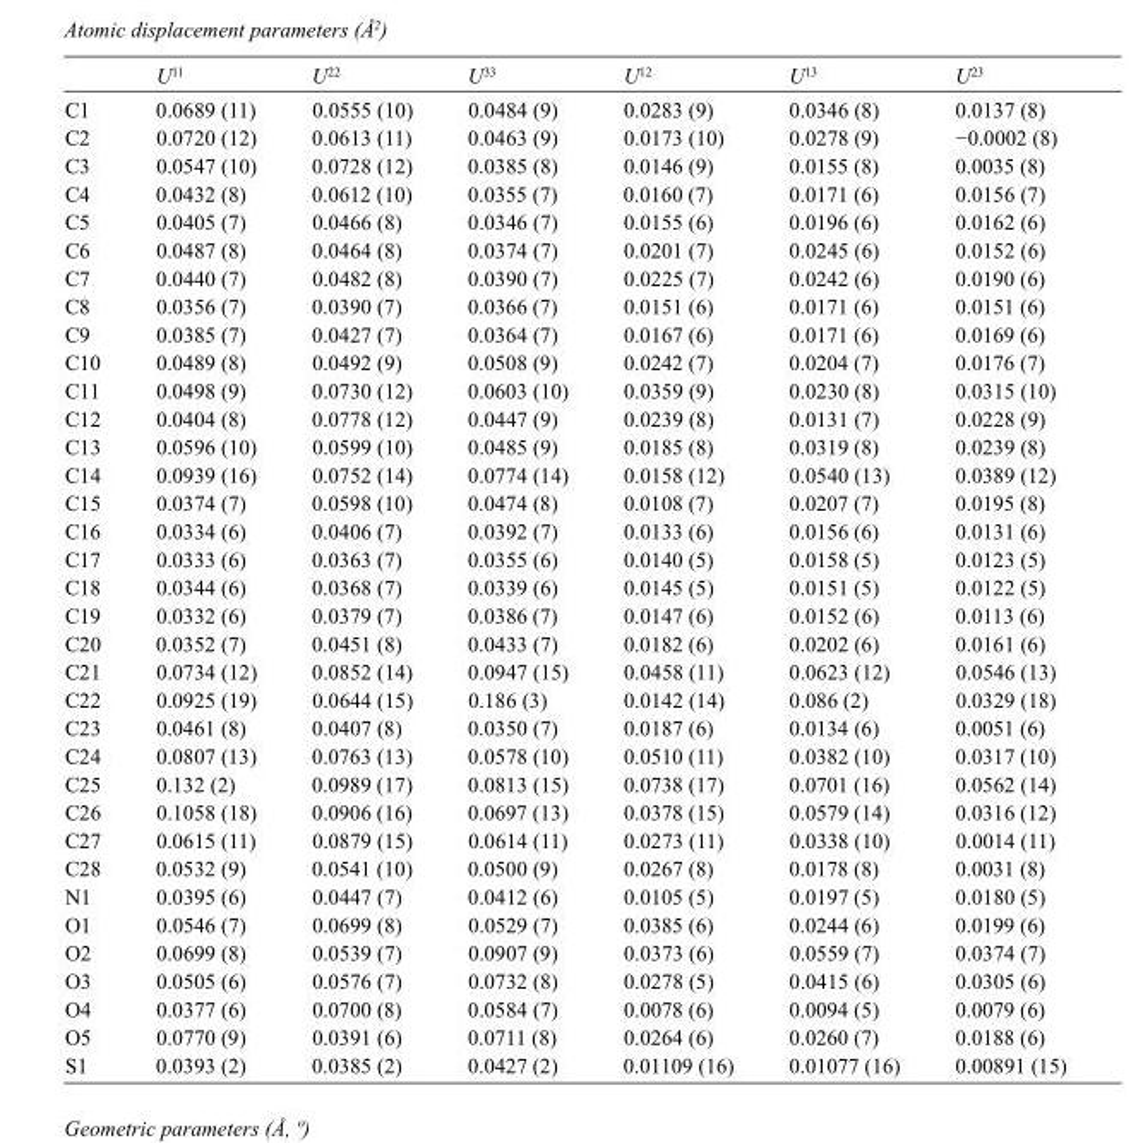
<table><thead><tr><td></td><td>U<sup>11</sup></td><td>U<sup>22</sup></td><td>U<sup>33</sup></td><td>U<sup>12</sup></td><td>U<sup>13</sup></td><td>U<sup>23</sup></td></tr></thead><tbody><tr><td>C1</td><td>0.0689 (11)</td><td>0.0555 (10)</td><td>0.0484 (9)</td><td>0.0283 (9)</td><td>0.0346 (8)</td><td>0.0137 (8)</td></tr><tr><td>C2</td><td>0.0720 (12)</td><td>0.0613 (11)</td><td>0.0463 (9)</td><td>0.0173 (10)</td><td>0.0278 (9)</td><td>−0.0002 (8)</td></tr><tr><td>C3</td><td>0.0547 (10)</td><td>0.0728 (12)</td><td>0.0385 (8)</td><td>0.0146 (9)</td><td>0.0155 (8)</td><td>0.0035 (8)</td></tr><tr><td>C4</td><td>0.0432 (8)</td><td>0.0612 (10)</td><td>0.0355 (7)</td><td>0.0160 (7)</td><td>0.0171 (6)</td><td>0.0156 (7)</td></tr><tr><td>C5</td><td>0.0405 (7)</td><td>0.0466 (8)</td><td>0.0346 (7)</td><td>0.0155 (6)</td><td>0.0196 (6)</td><td>0.0162 (6)</td></tr><tr><td>C6</td><td>0.0487 (8)</td><td>0.0464 (8)</td><td>0.0374 (7)</td><td>0.0201 (7)</td><td>0.0245 (6)</td><td>0.0152 (6)</td></tr><tr><td>C7</td><td>0.0440 (7)</td><td>0.0482 (8)</td><td>0.0390 (7)</td><td>0.0225 (7)</td><td>0.0242 (6)</td><td>0.0190 (6)</td></tr><tr><td>C8</td><td>0.0356 (7)</td><td>0.0390 (7)</td><td>0.0366 (7)</td><td>0.0151 (6)</td><td>0.0171 (6)</td><td>0.0151 (6)</td></tr><tr><td>C9</td><td>0.0385 (7)</td><td>0.0427 (7)</td><td>0.0364 (7)</td><td>0.0167 (6)</td><td>0.0171 (6)</td><td>0.0169 (6)</td></tr><tr><td>C10</td><td>0.0489 (8)</td><td>0.0492 (9)</td><td>0.0508 (9)</td><td>0.0242 (7)</td><td>0.0204 (7)</td><td>0.0176 (7)</td></tr><tr><td>C11</td><td>0.0498 (9)</td><td>0.0730 (12)</td><td>0.0603 (10)</td><td>0.0359 (9)</td><td>0.0230 (8)</td><td>0.0315 (10)</td></tr><tr><td>C12</td><td>0.0404 (8)</td><td>0.0778 (12)</td><td>0.0447 (9)</td><td>0.0239 (8)</td><td>0.0131 (7)</td><td>0.0228 (9)</td></tr><tr><td>C13</td><td>0.0596 (10)</td><td>0.0599 (10)</td><td>0.0485 (9)</td><td>0.0185 (8)</td><td>0.0319 (8)</td><td>0.0239 (8)</td></tr><tr><td>C14</td><td>0.0939 (16)</td><td>0.0752 (14)</td><td>0.0774 (14)</td><td>0.0158 (12)</td><td>0.0540 (13)</td><td>0.0389 (12)</td></tr><tr><td>C15</td><td>0.0374 (7)</td><td>0.0598 (10)</td><td>0.0474 (8)</td><td>0.0108 (7)</td><td>0.0207 (7)</td><td>0.0195 (8)</td></tr><tr><td>C16</td><td>0.0334 (6)</td><td>0.0406 (7)</td><td>0.0392 (7)</td><td>0.0133 (6)</td><td>0.0156 (6)</td><td>0.0131 (6)</td></tr><tr><td>C17</td><td>0.0333 (6)</td><td>0.0363 (7)</td><td>0.0355 (6)</td><td>0.0140 (5)</td><td>0.0158 (5)</td><td>0.0123 (5)</td></tr><tr><td>C18</td><td>0.0344 (6)</td><td>0.0368 (7)</td><td>0.0339 (6)</td><td>0.0145 (5)</td><td>0.0151 (5)</td><td>0.0122 (5)</td></tr><tr><td>C19</td><td>0.0332 (6)</td><td>0.0379 (7)</td><td>0.0386 (7)</td><td>0.0147 (6)</td><td>0.0152 (6)</td><td>0.0113 (6)</td></tr><tr><td>C20</td><td>0.0352 (7)</td><td>0.0451 (8)</td><td>0.0433 (7)</td><td>0.0182 (6)</td><td>0.0202 (6)</td><td>0.0161 (6)</td></tr><tr><td>C21</td><td>0.0734 (12)</td><td>0.0852 (14)</td><td>0.0947 (15)</td><td>0.0458 (11)</td><td>0.0623 (12)</td><td>0.0546 (13)</td></tr><tr><td>C22</td><td>0.0925 (19)</td><td>0.0644 (15)</td><td>0.186 (3)</td><td>0.0142 (14)</td><td>0.086 (2)</td><td>0.0329 (18)</td></tr><tr><td>C23</td><td>0.0461 (8)</td><td>0.0407 (8)</td><td>0.0350 (7)</td><td>0.0187 (6)</td><td>0.0134 (6)</td><td>0.0051 (6)</td></tr><tr><td>C24</td><td>0.0807 (13)</td><td>0.0763 (13)</td><td>0.0578 (10)</td><td>0.0510 (11)</td><td>0.0382 (10)</td><td>0.0317 (10)</td></tr><tr><td>C25</td><td>0.132 (2)</td><td>0.0989 (17)</td><td>0.0813 (15)</td><td>0.0738 (17)</td><td>0.0701 (16)</td><td>0.0562 (14)</td></tr><tr><td>C26</td><td>0.1058 (18)</td><td>0.0906 (16)</td><td>0.0697 (13)</td><td>0.0378 (15)</td><td>0.0579 (14)</td><td>0.0316 (12)</td></tr><tr><td>C27</td><td>0.0615 (11)</td><td>0.0879 (15)</td><td>0.0614 (11)</td><td>0.0273 (11)</td><td>0.0338 (10)</td><td>0.0014 (11)</td></tr><tr><td>C28</td><td>0.0532 (9)</td><td>0.0541 (10)</td><td>0.0500 (9)</td><td>0.0267 (8)</td><td>0.0178 (8)</td><td>0.0031 (8)</td></tr><tr><td>N1</td><td>0.0395 (6)</td><td>0.0447 (7)</td><td>0.0412 (6)</td><td>0.0105 (5)</td><td>0.0197 (5)</td><td>0.0180 (5)</td></tr><tr><td>O1</td><td>0.0546 (7)</td><td>0.0699 (8)</td><td>0.0529 (7)</td><td>0.0385 (6)</td><td>0.0244 (6)</td><td>0.0199 (6)</td></tr><tr><td>O2</td><td>0.0699 (8)</td><td>0.0539 (7)</td><td>0.0907 (9)</td><td>0.0373 (6)</td><td>0.0559 (7)</td><td>0.0374 (7)</td></tr><tr><td>O3</td><td>0.0505 (6)</td><td>0.0576 (7)</td><td>0.0732 (8)</td><td>0.0278 (5)</td><td>0.0415 (6)</td><td>0.0305 (6)</td></tr><tr><td>O4</td><td>0.0377 (6)</td><td>0.0700 (8)</td><td>0.0584 (7)</td><td>0.0078 (6)</td><td>0.0094 (5)</td><td>0.0079 (6)</td></tr><tr><td>O5</td><td>0.0770 (9)</td><td>0.0391 (6)</td><td>0.0711 (8)</td><td>0.0264 (6)</td><td>0.0260 (7)</td><td>0.0188 (6)</td></tr><tr><td>S1</td><td>0.0393 (2)</td><td>0.0385 (2)</td><td>0.0427 (2)</td><td>0.01109 (16)</td><td>0.01077 (16)</td><td>0.00891 (15)</td></tr></tbody></table>